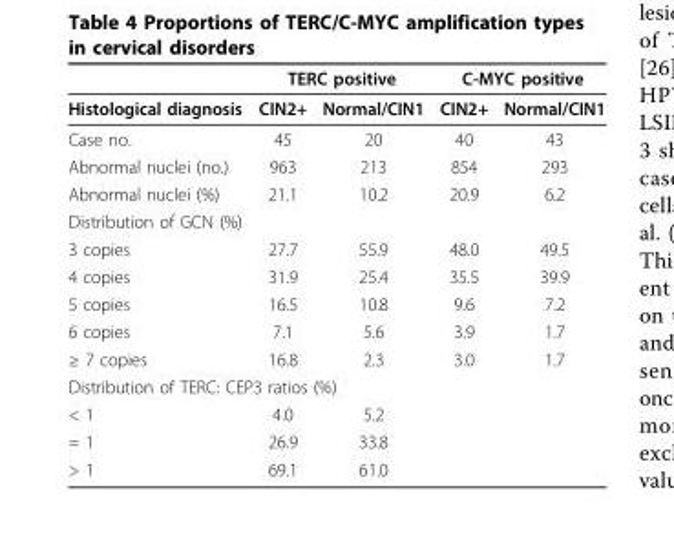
<table><thead><tr><td rowspan="2">Histological diagnosis</td><td colspan="2">TERC positive</td><td colspan="2">C-MYC positive</td></tr><tr><td>CIN2+</td><td>Normal/CIN1</td><td>CIN2+</td><td>Normal/CIN1</td></tr></thead><tbody><tr><td>Case no.</td><td>45</td><td>20</td><td>40</td><td>43</td></tr><tr><td>Abnormal nuclei (no.)</td><td>963</td><td>213</td><td>854</td><td>293</td></tr><tr><td>Abnormal nuclei (%)</td><td>21.1</td><td>10.2</td><td>20.9</td><td>6.2</td></tr><tr><td colspan="5">Distribution of GCN (%)</td></tr><tr><td>3 copies</td><td>27.7</td><td>55.9</td><td>48.0</td><td>49.5</td></tr><tr><td>4 copies</td><td>31.9</td><td>25.4</td><td>35.5</td><td>39.9</td></tr><tr><td>5 copies</td><td>16.5</td><td>10.8</td><td>9.6</td><td>7.2</td></tr><tr><td>6 copies</td><td>7.1</td><td>5.6</td><td>3.9</td><td>1.7</td></tr><tr><td>≥ 7 copies</td><td>16.8</td><td>2.3</td><td>3.0</td><td>1.7</td></tr><tr><td colspan="5">Distribution of TERC: CEP3 ratios (%)</td></tr><tr><td>&lt; 1</td><td>4.0</td><td>5.2</td><td></td><td></td></tr><tr><td>= 1</td><td>26.9</td><td>33.8</td><td></td><td></td></tr><tr><td>&gt; 1</td><td>69.1</td><td>61.0</td><td></td><td></td></tr></tbody></table>